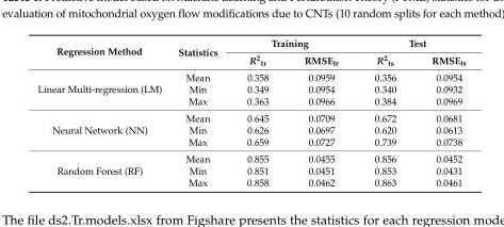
<table><thead><tr><td rowspan="2">Regression Method</td><td rowspan="2">Statistics</td><td colspan="2">Training</td><td colspan="2">Test</td></tr><tr><td>R<sup>2</sup><sub>tr</sub></td><td>RMSE<sub>tr</sub></td><td>R<sup>2</sup><sub>ts</sub></td><td>RMSE<sub>ts</sub></td></tr></thead><tbody><tr><td rowspan="3">Linear Multi-regression (LM)</td><td>Mean</td><td>0.358</td><td>0.0959</td><td>0.356</td><td>0.0954</td></tr><tr><td>Min</td><td>0.349</td><td>0.0954</td><td>0.340</td><td>0.0932</td></tr><tr><td>Max</td><td>0.363</td><td>0.0966</td><td>0.384</td><td>0.0969</td></tr><tr><td rowspan="3">Neural Network (NN)</td><td>Mean</td><td>0.645</td><td>0.0709</td><td>0.672</td><td>0.0681</td></tr><tr><td>Min</td><td>0.626</td><td>0.0697</td><td>0.620</td><td>0.0613</td></tr><tr><td>Max</td><td>0.659</td><td>0.0727</td><td>0.739</td><td>0.0738</td></tr><tr><td rowspan="3">Random Forest (RF)</td><td>Mean</td><td>0.855</td><td>0.0455</td><td>0.856</td><td>0.0452</td></tr><tr><td>Min</td><td>0.851</td><td>0.0451</td><td>0.853</td><td>0.0431</td></tr><tr><td>Max</td><td>0.858</td><td>0.0462</td><td>0.863</td><td>0.0461</td></tr></tbody></table>